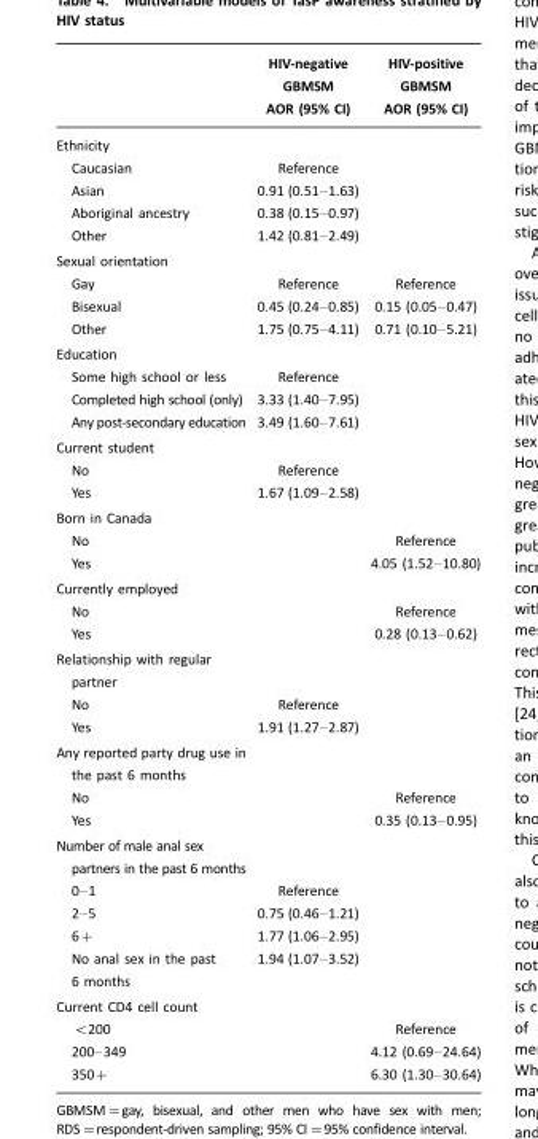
<table><thead><tr><td></td><td>HIV-negative GBMSM AOR (95% CI)</td><td>HIV-positive GBMSM AOR (95% CI)</td></tr></thead><tbody><tr><td colspan="3">Ethnicity</td></tr><tr><td>Caucasian</td><td>Reference</td><td></td></tr><tr><td>Asian</td><td>0.91 (0.51–1.63)</td><td></td></tr><tr><td>Aboriginal ancestry</td><td>0.38 (0.15–0.97)</td><td></td></tr><tr><td>Other</td><td>1.42 (0.81–2.49)</td><td></td></tr><tr><td colspan="3">Sexual orientation</td></tr><tr><td>Gay</td><td>Reference</td><td>Reference</td></tr><tr><td>Bisexual</td><td>0.45 (0.24–0.85)</td><td>0.15 (0.05–0.47)</td></tr><tr><td>Other</td><td>1.75 (0.75–4.11)</td><td>0.71 (0.10–5.21)</td></tr><tr><td colspan="3">Education</td></tr><tr><td>Some high school or less</td><td>Reference</td><td></td></tr><tr><td>Completed high school (only)</td><td>3.33 (1.40–7.95)</td><td></td></tr><tr><td>Any post-secondary education</td><td>3.49 (1.60–7.61)</td><td></td></tr><tr><td colspan="3">Current student</td></tr><tr><td>No</td><td>Reference</td><td></td></tr><tr><td>Yes</td><td>1.67 (1.09–2.58)</td><td></td></tr><tr><td colspan="3">Born in Canada</td></tr><tr><td>No</td><td></td><td>Reference</td></tr><tr><td>Yes</td><td></td><td>4.05 (1.52–10.80)</td></tr><tr><td colspan="3">Currently employed</td></tr><tr><td>No</td><td></td><td>Reference</td></tr><tr><td>Yes</td><td></td><td>0.28 (0.13–0.62)</td></tr><tr><td colspan="3">Relationship with regular partner</td></tr><tr><td>No</td><td>Reference</td><td></td></tr><tr><td>Yes</td><td>1.91 (1.27–2.87)</td><td></td></tr><tr><td colspan="3">Any reported party drug use in the past 6 months</td></tr><tr><td>No</td><td></td><td>Reference</td></tr><tr><td>Yes</td><td></td><td>0.35 (0.13–0.95)</td></tr><tr><td colspan="3">Number of male anal sex partners in the past 6 months</td></tr><tr><td>0–1</td><td>Reference</td><td></td></tr><tr><td>2–5</td><td>0.75 (0.46–1.21)</td><td></td></tr><tr><td>6+</td><td>1.77 (1.06–2.95)</td><td></td></tr><tr><td>No anal sex in the past 6 months</td><td>1.94 (1.07–3.52)</td><td></td></tr><tr><td colspan="3">Current CD4 cell count</td></tr><tr><td>&lt;200</td><td></td><td>Reference</td></tr><tr><td>200–349</td><td></td><td>4.12 (0.69–24.64)</td></tr><tr><td>350+</td><td></td><td>6.30 (1.30–30.64)</td></tr></tbody></table>